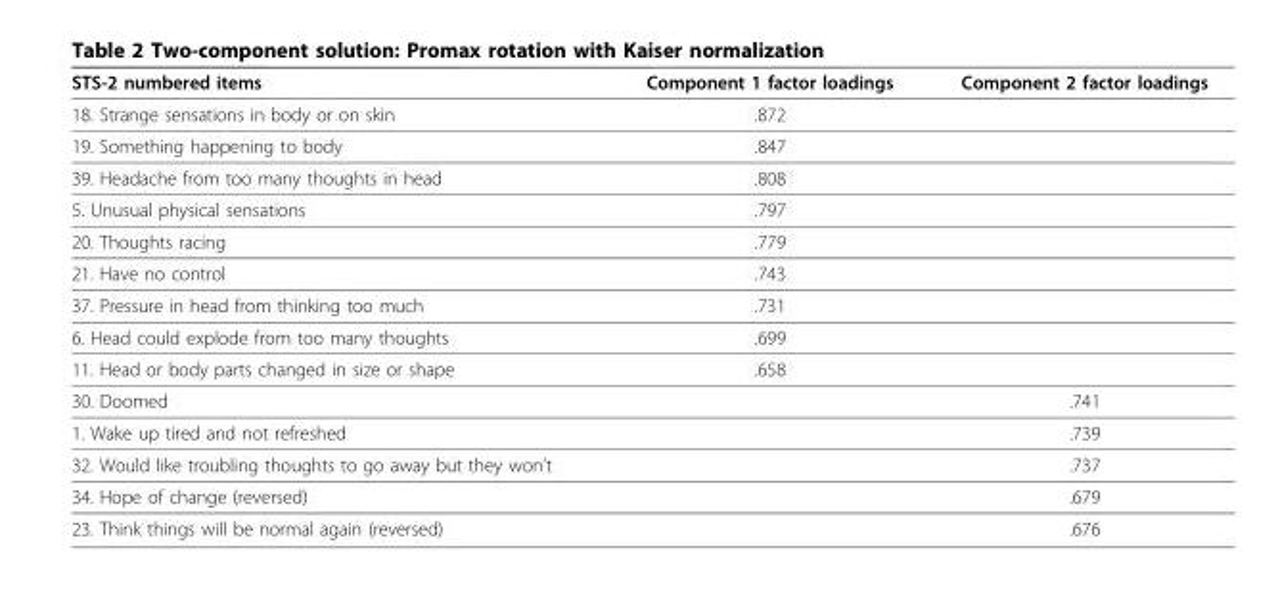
<table><thead><tr><td>STS-2 numbered items</td><td>Component 1 factor loadings</td><td>Component 2 factor loadings</td></tr></thead><tbody><tr><td>18. Strange sensations in body or on skin</td><td>.872</td><td></td></tr><tr><td>19. Something happening to body</td><td>.847</td><td></td></tr><tr><td>39. Headache from too many thoughts in head</td><td>.808</td><td></td></tr><tr><td>5. Unusual physical sensations</td><td>.797</td><td></td></tr><tr><td>20. Thoughts racing</td><td>.779</td><td></td></tr><tr><td>21. Have no control</td><td>.743</td><td></td></tr><tr><td>37. Pressure in head from thinking too much</td><td>.731</td><td></td></tr><tr><td>6. Head could explode from too many thoughts</td><td>.699</td><td></td></tr><tr><td>11. Head or body parts changed in size or shape</td><td>.658</td><td></td></tr><tr><td>30. Doomed</td><td></td><td>.741</td></tr><tr><td>1. Wake up tired and not refreshed</td><td></td><td>.739</td></tr><tr><td>32. Would like troubling thoughts to go away but they won’t</td><td></td><td>.737</td></tr><tr><td>34. Hope of change (reversed)</td><td></td><td>.679</td></tr><tr><td>23. Think things will be normal again (reversed)</td><td></td><td>.676</td></tr></tbody></table>